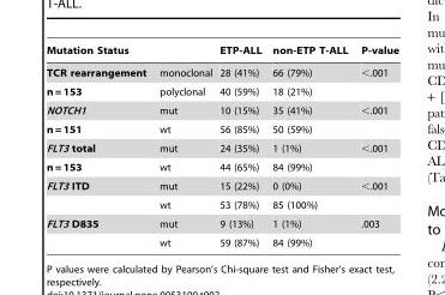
<table><thead><tr><td colspan="2">Mutation Status</td><td rowspan="2">ETP-ALL 28 (41%)</td><td rowspan="2">non-ETP T-ALL 66 (79%)</td><td rowspan="2">P-value &lt;.001</td></tr><tr><td>TCR rearrangement</td><td>monoclonal</td></tr></thead><tbody><tr><td>n = 153</td><td>polyclonal</td><td>40 (59%)</td><td>18 (21%)</td><td></td></tr><tr><td>NOTCH1</td><td>mut</td><td>10 (15%)</td><td>35 (41%)</td><td>&lt;.001</td></tr><tr><td>n = 151</td><td>wt</td><td>56 (85%)</td><td>50 (59%)</td><td></td></tr><tr><td>FLT3 total</td><td>mut</td><td>24 (35%)</td><td>1 (1%)</td><td>&lt;.001</td></tr><tr><td>n = 153</td><td>wt</td><td>44 (65%)</td><td>84 (99%)</td><td></td></tr><tr><td rowspan="2">FLT3 ITD</td><td>mut</td><td>15 (22%)</td><td>0 (0%)</td><td>&lt;.001</td></tr><tr><td>wt</td><td>53 (78%)</td><td>85 (100%)</td><td></td></tr><tr><td rowspan="2">FLT3 D835</td><td>mut</td><td>9 (13%)</td><td>1 (1%)</td><td>.003</td></tr><tr><td>wt</td><td>59 (87%)</td><td>84 (99%)</td><td></td></tr></tbody></table>